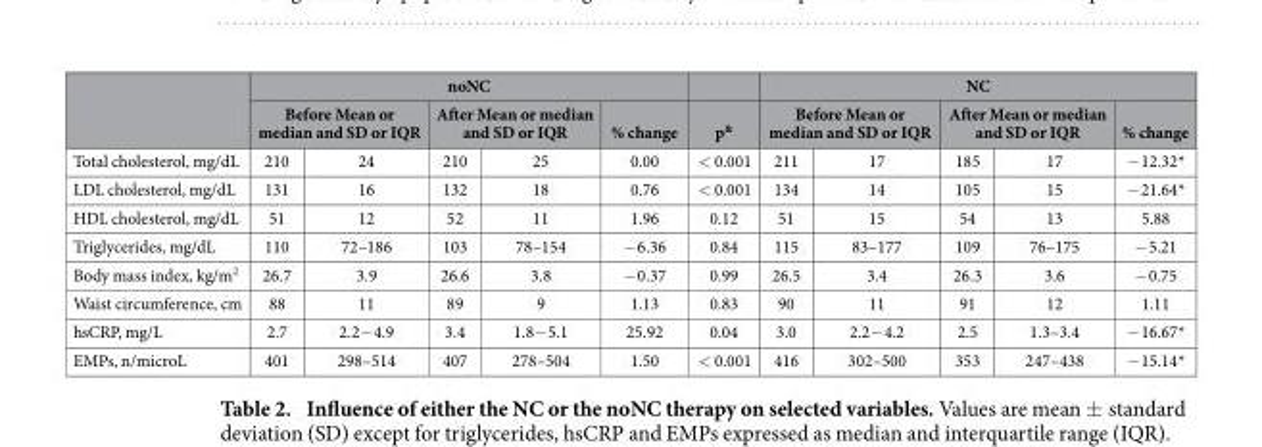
<table><thead><tr><td rowspan="3">Total cholesterol, mg/dL</td><td colspan="5">noNC</td><td rowspan="3">p<sup>&amp;</sup> &lt; 0.001</td><td colspan="5">NC</td></tr><tr><td colspan="2">Before Mean or median and SD or IQR</td><td colspan="2">After Mean or median and SD or IQR</td><td rowspan="2">% change 0.00</td><td colspan="2">Before Mean or median and SD or IQR</td><td colspan="2">After Mean or median and SD or IQR</td><td rowspan="2">% change − 12.32*</td></tr><tr><td>210</td><td>24</td><td>210</td><td>25</td><td>211</td><td>17</td><td>185</td><td>17</td></tr></thead><tbody><tr><td>LDL cholesterol, mg/dL</td><td>131</td><td>16</td><td>132</td><td>18</td><td>0.76</td><td>&lt; 0.001</td><td>134</td><td>14</td><td>105</td><td>15</td><td>− 21.64*</td></tr><tr><td>HDL cholesterol, mg/dL</td><td>51</td><td>12</td><td>52</td><td>11</td><td>1.96</td><td>0.12</td><td>51</td><td>15</td><td>54</td><td>13</td><td>5.88</td></tr><tr><td>Triglycerides, mg/dL</td><td>110</td><td>72–186</td><td>103</td><td>78–154</td><td>− 6.36</td><td>0.84</td><td>115</td><td>83–177</td><td>109</td><td>76–175</td><td>− 5.21</td></tr><tr><td>Body mass index, kg/m<sup>2</sup></td><td>26.7</td><td>3.9</td><td>26.6</td><td>3.8</td><td>− 0.37</td><td>0.99</td><td>26.5</td><td>3.4</td><td>26.3</td><td>3.6</td><td>− 0.75</td></tr><tr><td>Waist circumference, cm</td><td>88</td><td>11</td><td>89</td><td>9</td><td>1.13</td><td>0.83</td><td>90</td><td>11</td><td>91</td><td>12</td><td>1.11</td></tr><tr><td>hsCRP, mg/L</td><td>2.7</td><td>2.2− 4.9</td><td>3.4</td><td>1.8− 5.1</td><td>25.92</td><td>0.04</td><td>3.0</td><td>2.2− 4.2</td><td>2.5</td><td>1.3–3.4</td><td>− 16.67*</td></tr><tr><td>EMPs, n/microL</td><td>401</td><td>298–514</td><td>407</td><td>278–504</td><td>1.50</td><td>&lt; 0.001</td><td>416</td><td>302–500</td><td>353</td><td>247–438</td><td>− 15.14*</td></tr></tbody></table>